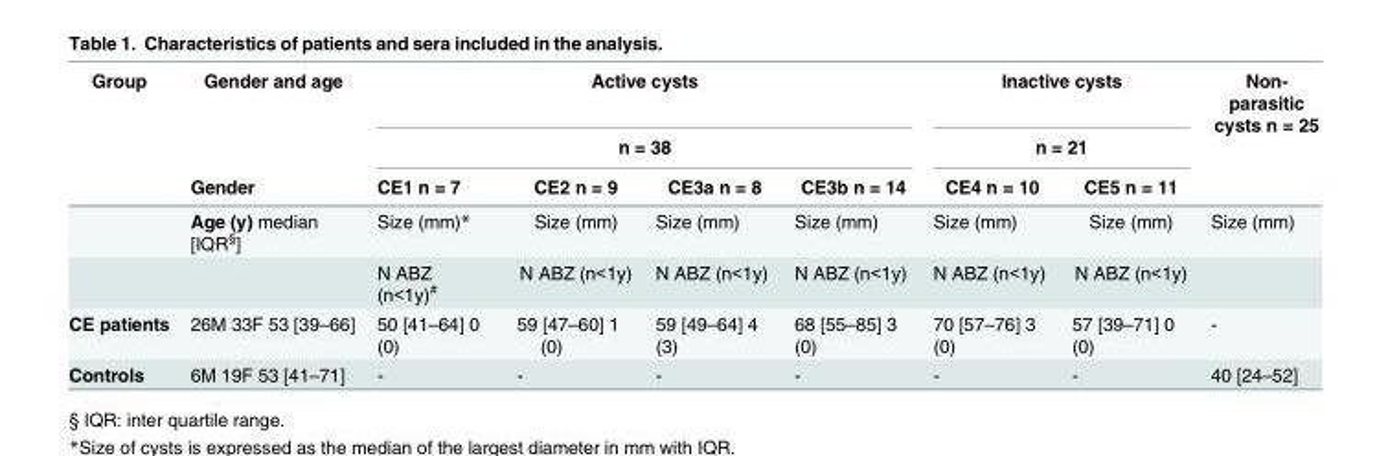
<table><thead><tr><td rowspan="3">Group</td><td rowspan="3">Gender and age Gender</td><td rowspan="2" colspan="4">Active cysts n = 38</td><td rowspan="2" colspan="2">Inactive cysts n = 21</td><td rowspan="3">Non- parasitic cysts n = 25</td></tr><tr></tr><tr><td>CE1 n = 7</td><td>CE2 n = 9</td><td>CE3a n = 8</td><td>CE3b n = 14</td><td>CE4 n = 10</td><td>CE5 n = 11</td></tr></thead><tbody><tr><td></td><td>Age (y) median [IQR<sup>§</sup>]</td><td>Size (mm)*</td><td>Size (mm)</td><td>Size (mm)</td><td>Size (mm)</td><td>Size (mm)</td><td>Size (mm)</td><td>Size (mm)</td></tr><tr><td></td><td></td><td>N ABZ (n&lt;1y)<sup>#</sup></td><td>N ABZ (n&lt;1y)</td><td>N ABZ (n&lt;1y)</td><td>N ABZ (n&lt;1y)</td><td>N ABZ (n&lt;1y)</td><td>N ABZ (n&lt;1y)</td><td></td></tr><tr><td>CE patients</td><td>26M 33F 53 [39–66]</td><td>50 [41–64] 0 (0)</td><td>59 [47–60] 1 (0)</td><td>59 [49–64] 4 (3)</td><td>68 [55–85] 3 (0)</td><td>70 [57–76] 3 (0)</td><td>57 [39–71] 0 (0)</td><td>-</td></tr><tr><td>Controls</td><td>6M 19F 53 [41–71]</td><td>-</td><td>-</td><td>-</td><td>-</td><td>-</td><td>-</td><td>40 [24–52]</td></tr></tbody></table>